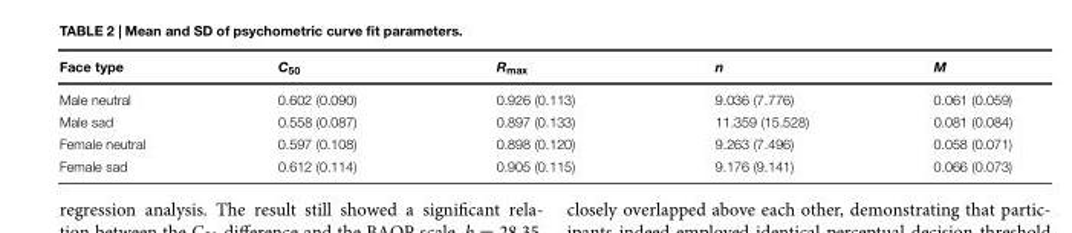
<table><thead><tr><td>Face type</td><td>C<sub>50</sub></td><td>R<sub>max</sub></td><td>n</td><td>M</td></tr></thead><tbody><tr><td>Male neutral</td><td>0.602 (0.090)</td><td>0.926 (0.113)</td><td>9.036 (7.776)</td><td>0.061 (0.059)</td></tr><tr><td>Male sad</td><td>0.558 (0.087)</td><td>0.897 (0.133)</td><td>11.359 (15.528)</td><td>0.081 (0.084)</td></tr><tr><td>Female neutral</td><td>0.597 (0.108)</td><td>0.898 (0.120)</td><td>9.263 (7.496)</td><td>0.058 (0.071)</td></tr><tr><td>Female sad</td><td>0.612 (0.114)</td><td>0.905 (0.115)</td><td>9.176 (9.141)</td><td>0.066 (0.073)</td></tr></tbody></table>